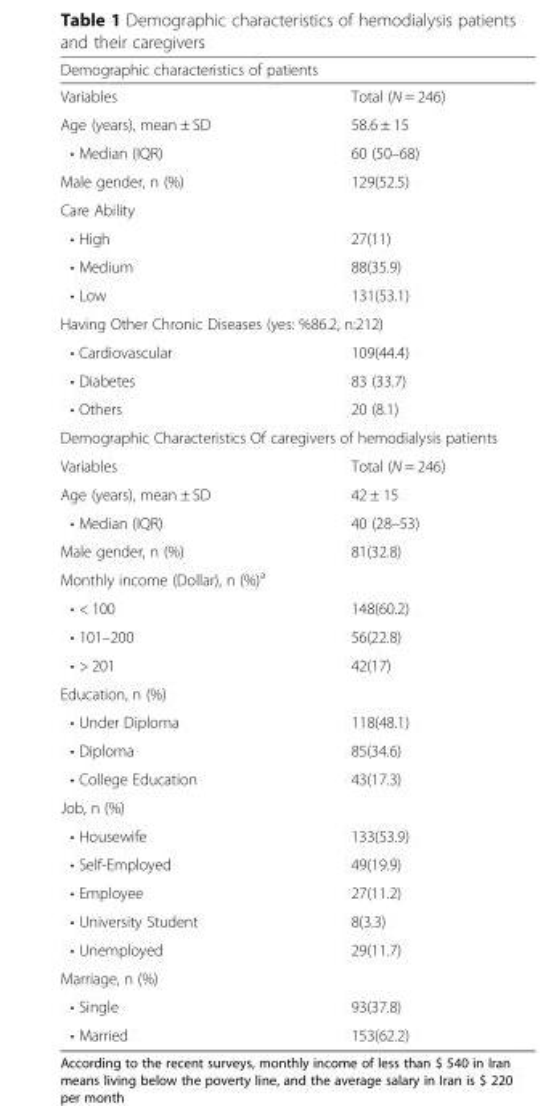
<table><thead><tr><td colspan="2">Demographic characteristics of patients</td></tr><tr><td>Variables</td><td>Total (N = 246)</td></tr></thead><tbody><tr><td>Age (years), mean ± SD</td><td>58.6 ± 15</td></tr><tr><td>• Median (IQR)</td><td>60 (50–68)</td></tr><tr><td>Male gender, n (%)</td><td>129(52.5)</td></tr><tr><td colspan="2">Care Ability</td></tr><tr><td>• High</td><td>27(11)</td></tr><tr><td>• Medium</td><td>88(35.9)</td></tr><tr><td>• Low</td><td>131(53.1)</td></tr><tr><td colspan="2">Having Other Chronic Diseases (yes: %86.2, n:212)</td></tr><tr><td>• Cardiovascular</td><td>109(44.4)</td></tr><tr><td>• Diabetes</td><td>83 (33.7)</td></tr><tr><td>• Others</td><td>20 (8.1)</td></tr><tr><td colspan="2">Demographic Characteristics Of caregivers of hemodialysis patients</td></tr><tr><td>Variables</td><td>Total (N = 246)</td></tr><tr><td>Age (years), mean ± SD</td><td>42 ± 15</td></tr><tr><td>• Median (IQR)</td><td>40 (28–53)</td></tr><tr><td>Male gender, n (%)</td><td>81(32.8)</td></tr><tr><td colspan="2">Monthly income (Dollar), n (%)<sup>a</sup></td></tr><tr><td>• &lt; 100</td><td>148(60.2)</td></tr><tr><td>• 101–200</td><td>56(22.8)</td></tr><tr><td>• &gt; 201</td><td>42(17)</td></tr><tr><td colspan="2">Education, n (%)</td></tr><tr><td>• Under Diploma</td><td>118(48.1)</td></tr><tr><td>• Diploma</td><td>85(34.6)</td></tr><tr><td>• College Education</td><td>43(17.3)</td></tr><tr><td colspan="2">Job, n (%)</td></tr><tr><td>• Housewife</td><td>133(53.9)</td></tr><tr><td>• Self-Employed</td><td>49(19.9)</td></tr><tr><td>• Employee</td><td>27(11.2)</td></tr><tr><td>• University Student</td><td>8(3.3)</td></tr><tr><td>• Unemployed</td><td>29(11.7)</td></tr><tr><td colspan="2">Marriage, n (%)</td></tr><tr><td>• Single</td><td>93(37.8)</td></tr><tr><td>• Married</td><td>153(62.2)</td></tr></tbody></table>